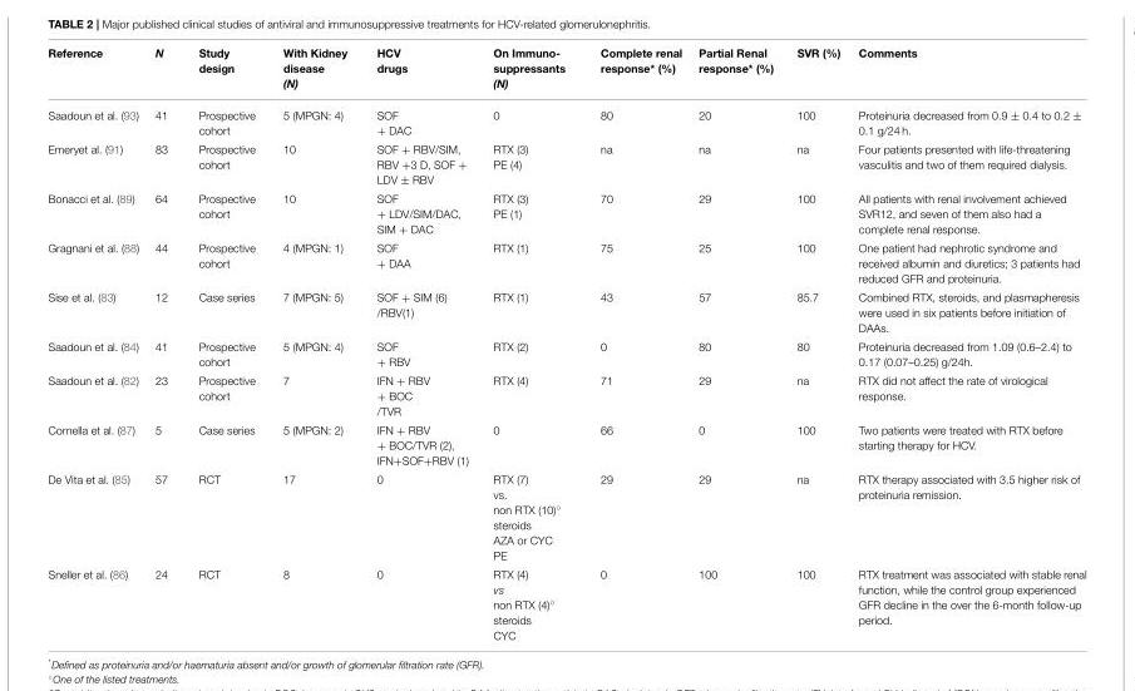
<table><thead><tr><td>Reference</td><td>N</td><td>Study design</td><td>With Kidney disease (N)</td><td>HCV drugs</td><td>On Immuno- suppressants (N)</td><td>Complete renal response* (%)</td><td>Partial Renal response* (%)</td><td>SVR (%)</td><td>Comments</td></tr></thead><tbody><tr><td>Saadoun et al. (93)</td><td>41</td><td>Prospective cohort</td><td>5 (MPGN: 4)</td><td>SOF + DAC</td><td>0</td><td>80</td><td>20</td><td>100</td><td>Proteinuria decreased from 0.9 ± 0.4 to 0.2 ± 0.1 g/24 h.</td></tr><tr><td>Emeryet al. (91)</td><td>83</td><td>Prospective cohort</td><td>10</td><td>SOF + RBV/SIM, RBV +3 D, SOF + LDV ± RBV</td><td>RTX (3) PE (4)</td><td>na</td><td>na</td><td>na</td><td>Four patients presented with life-threatening vasculitis and two of them required dialysis.</td></tr><tr><td>Bonacci et al. (89)</td><td>64</td><td>Prospective cohort</td><td>10</td><td>SOF + LDV/SIM/DAC, SIM + DAC</td><td>RTX (3) PE (1)</td><td>70</td><td>29</td><td>100</td><td>All patients with renal involvement achieved SVR12, and seven of them also had a complete renal response.</td></tr><tr><td>Gragnani et al. (88)</td><td>44</td><td>Prospective cohort</td><td>4 (MPGN: 1)</td><td>SOF + DAA</td><td>RTX (1)</td><td>75</td><td>25</td><td>100</td><td>One patient had nephrotic syndrome and received albumin and diuretics; 3 patients had reduced GFR and proteinuria.</td></tr><tr><td>Sise et al. (83)</td><td>12</td><td>Case series</td><td>7 (MPGN: 5)</td><td>SOF + SIM (6) /RBV(1)</td><td>RTX (1)</td><td>43</td><td>57</td><td>85.7</td><td>Combined RTX, steroids, and plasmapheresis were used in six patients before initiation of DAAs.</td></tr><tr><td>Saadoun et al. (84)</td><td>41</td><td>Prospective cohort</td><td>5 (MPGN: 4)</td><td>SOF + RBV</td><td>RTX (2)</td><td>0</td><td>80</td><td>80</td><td>Proteinuria decreased from 1.09 (0.6–2.4) to 0.17 (0.07–0.25) g/24h.</td></tr><tr><td>Saadoun et al. (82)</td><td>23</td><td>Prospective cohort</td><td>7</td><td>IFN + RBV + BOC /TVR</td><td>RTX (4)</td><td>71</td><td>29</td><td>na</td><td>RTX did not affect the rate of virological response.</td></tr><tr><td>Cornella et al. (87)</td><td>5</td><td>Case series</td><td>5 (MPGN: 2)</td><td>IFN + RBV + BOC/TVR (2), IFN+SOF+RBV (1)</td><td>0</td><td>66</td><td>0</td><td>100</td><td>Two patients were treated with RTX before starting therapy for HCV.</td></tr><tr><td>De Vita et al. (85)</td><td>57</td><td>RCT</td><td>17</td><td>0</td><td>RTX (7) vs. non RTX (10)◦ steroids AZA or CYC PE</td><td>29</td><td>29</td><td>na</td><td>RTX therapy associated with 3.5 higher risk of proteinuria remission.</td></tr><tr><td>Sneller et al. (86)</td><td>24</td><td>RCT</td><td>8</td><td>0</td><td>RTX (4) vs non RTX (4)◦ steroids CYC</td><td>0</td><td>100</td><td>100</td><td>RTX treatment was associated with stable renal function, while the control group experienced GFR decline in the over the 6-month follow-up period.</td></tr></tbody></table>